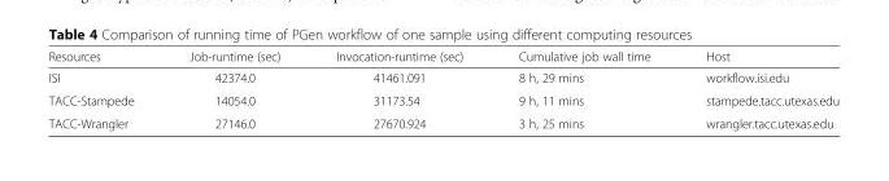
<table><thead><tr><td>Resources</td><td>Job-runtime (sec)</td><td>Invocation-runtime (sec)</td><td>Cumulative job wall time</td><td>Host</td></tr></thead><tbody><tr><td>ISI</td><td>42374.0</td><td>41461.091</td><td>8 h, 29 mins</td><td>workflow.isi.edu</td></tr><tr><td>TACC-Stampede</td><td>14054.0</td><td>31173.54</td><td>9 h, 11 mins</td><td>stampede.tacc.utexas.edu</td></tr><tr><td>TACC-Wrangler</td><td>27146.0</td><td>27670.924</td><td>3 h, 25 mins</td><td>wrangler.tacc.utexas.edu</td></tr></tbody></table>